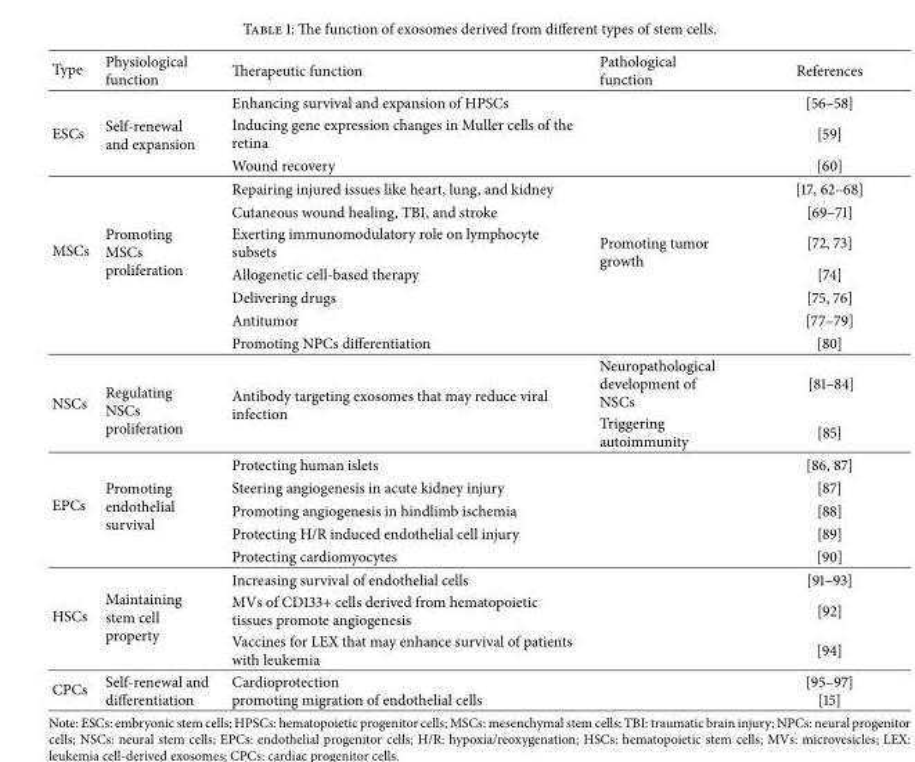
<table><thead><tr><td>Type</td><td>Physiological function</td><td>Therapeutic function</td><td>Pathological function</td><td>References</td></tr></thead><tbody><tr><td rowspan="3">ESCs</td><td rowspan="3">Self-renewal and expansion</td><td>Enhancing survival and expansion of HPSCs</td><td></td><td>[56–58]</td></tr><tr><td>Inducing gene expression changes in Muller cells of the retina</td><td></td><td>[59]</td></tr><tr><td>Wound recovery</td><td></td><td>[60]</td></tr><tr><td rowspan="7">MSCs</td><td rowspan="7">Promoting MSCs proliferation</td><td>Repairing injured issues like heart, lung, and kidney</td><td rowspan="7">Promoting tumor growth</td><td>[17, 62–68]</td></tr><tr><td>Cutaneous wound healing, TBI, and stroke</td><td>[69–71]</td></tr><tr><td>Exerting immunomodulatory role on lymphocyte subsets</td><td>[72, 73]</td></tr><tr><td>Allogenetic cell-based therapy</td><td>[74]</td></tr><tr><td>Delivering drugs</td><td>[75, 76]</td></tr><tr><td>Antitumor</td><td>[77–79]</td></tr><tr><td>Promoting NPCs differentiation</td><td>[80]</td></tr><tr><td rowspan="2">NSCs</td><td rowspan="2">Regulating NSCs proliferation</td><td rowspan="2">Antibody targeting exosomes that may reduce viral infection</td><td>Neuropathological development of NSCs</td><td>[81–84]</td></tr><tr><td>Triggering autoimmunity</td><td>[85]</td></tr><tr><td rowspan="5">EPCs</td><td rowspan="5">Promoting endothelial survival</td><td>Protecting human islets</td><td></td><td>[86, 87]</td></tr><tr><td>Steering angiogenesis in acute kidney injury</td><td></td><td>[87]</td></tr><tr><td>Promoting angiogenesis in hindlimb ischemia</td><td></td><td>[88]</td></tr><tr><td>Protecting H/R induced endothelial cell injury</td><td></td><td>[89]</td></tr><tr><td>Protecting cardiomyocytes</td><td></td><td>[90]</td></tr><tr><td rowspan="3">HSCs</td><td rowspan="3">Maintaining stem cell property</td><td>Increasing survival of endothelial cells</td><td></td><td>[91–93]</td></tr><tr><td>MVs of CD133+ cells derived from hematopoietic tissues promote angiogenesis</td><td></td><td>[92]</td></tr><tr><td>Vaccines for LEX that may enhance survival of patients with leukemia</td><td></td><td>[94]</td></tr><tr><td>CPCs</td><td>Self-renewal and differentiation</td><td>Cardioprotection promoting migration of endothelial cells</td><td></td><td>[95–97] [15]</td></tr></tbody></table>